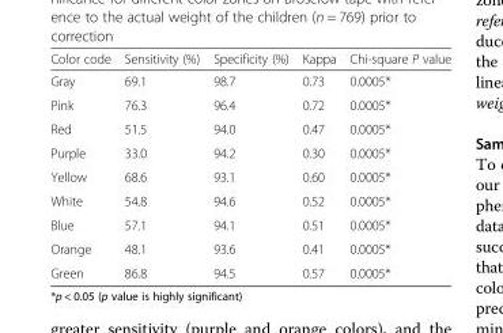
<table><thead><tr><td>Color code</td><td>Sensitivity (%)</td><td>Specificity (%)</td><td>Kappa</td><td>Chi-square P value</td></tr></thead><tbody><tr><td>Gray</td><td>69.1</td><td>98.7</td><td>0.73</td><td>0.0005*</td></tr><tr><td>Pink</td><td>76.3</td><td>96.4</td><td>0.72</td><td>0.0005*</td></tr><tr><td>Red</td><td>51.5</td><td>94.0</td><td>0.47</td><td>0.0005*</td></tr><tr><td>Purple</td><td>33.0</td><td>94.2</td><td>0.30</td><td>0.0005*</td></tr><tr><td>Yellow</td><td>68.6</td><td>93.1</td><td>0.60</td><td>0.0005*</td></tr><tr><td>White</td><td>54.8</td><td>94.6</td><td>0.52</td><td>0.0005*</td></tr><tr><td>Blue</td><td>57.1</td><td>94.1</td><td>0.51</td><td>0.0005*</td></tr><tr><td>Orange</td><td>48.1</td><td>93.6</td><td>0.41</td><td>0.0005*</td></tr><tr><td>Green</td><td>86.8</td><td>94.5</td><td>0.57</td><td>0.0005*</td></tr></tbody></table>